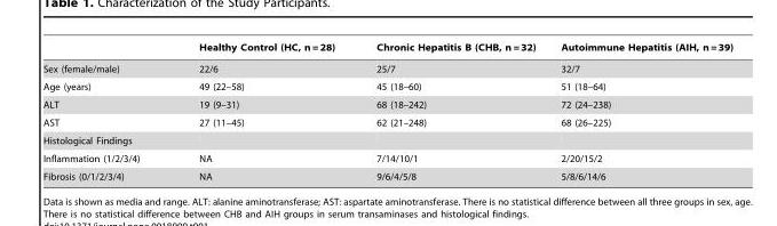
<table><thead><tr><td></td><td>Healthy Control (HC, n = 28)</td><td>Chronic Hepatitis B (CHB, n = 32)</td><td>Autoimmune Hepatitis (AIH, n = 39)</td></tr></thead><tbody><tr><td>Sex (female/male)</td><td>22/6</td><td>25/7</td><td>32/7</td></tr><tr><td>Age (years)</td><td>49 (22–58)</td><td>45 (18–60)</td><td>51 (18–64)</td></tr><tr><td>ALT</td><td>19 (9–31)</td><td>68 (18–242)</td><td>72 (24–238)</td></tr><tr><td>AST</td><td>27 (11–45)</td><td>62 (21–248)</td><td>68 (26–225)</td></tr><tr><td colspan="4">Histological Findings</td></tr><tr><td>Inflammation (1/2/3/4)</td><td>NA</td><td>7/14/10/1</td><td>2/20/15/2</td></tr><tr><td>Fibrosis (0/1/2/3/4)</td><td>NA</td><td>9/6/4/5/8</td><td>5/8/6/14/6</td></tr></tbody></table>